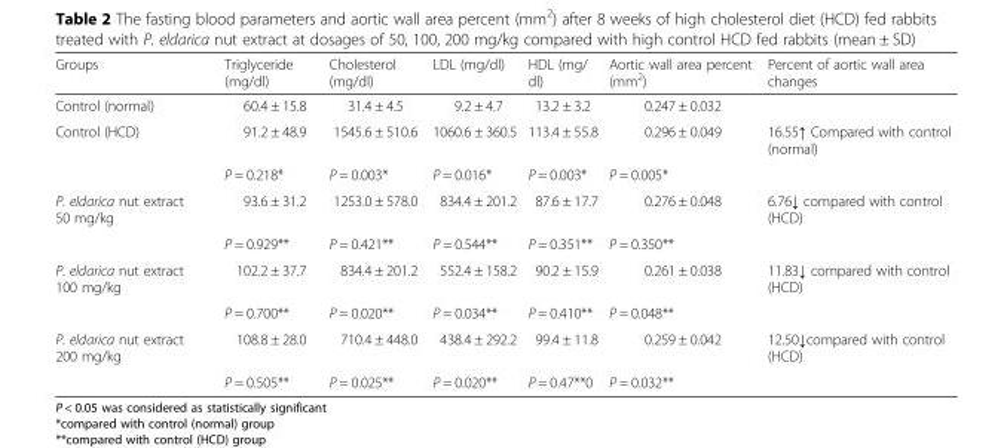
<table><thead><tr><td>Groups</td><td>Triglyceride (mg/dl)</td><td>Cholesterol (mg/dl)</td><td>LDL (mg/dl)</td><td>HDL (mg/ dl)</td><td>Aortic wall area percent (mm<sup>2</sup>)</td><td>Percent of aortic wall area changes</td></tr></thead><tbody><tr><td>Control (normal)</td><td>60.4 ± 15.8</td><td>31.4 ± 4.5</td><td>9.2 ± 4.7</td><td>13.2 ± 3.2</td><td>0.247 ± 0.032</td><td></td></tr><tr><td rowspan="2">Control (HCD)</td><td>91.2 ± 48.9</td><td>1545.6 ± 510.6</td><td>1060.6 ± 360.5</td><td>113.4 ± 55.8</td><td>0.296 ± 0.049</td><td>16.55↑ Compared with control (normal)</td></tr><tr><td>P = 0.218*</td><td>P = 0.003*</td><td>P = 0.016*</td><td>P = 0.003*</td><td>P = 0.005*</td><td></td></tr><tr><td rowspan="2">P. eldarica nut extract 50 mg/kg</td><td>93.6 ± 31.2</td><td>1253.0 ± 578.0</td><td>834.4 ± 201.2</td><td>87.6 ± 17.7</td><td>0.276 ± 0.048</td><td>6.76↓ compared with control (HCD)</td></tr><tr><td>P = 0.929**</td><td>P = 0.421**</td><td>P = 0.544**</td><td>P = 0.351**</td><td>P = 0.350**</td><td></td></tr><tr><td rowspan="2">P. eldarica nut extract 100 mg/kg</td><td>102.2 ± 37.7</td><td>834.4 ± 201.2</td><td>552.4 ± 158.2</td><td>90.2 ± 15.9</td><td>0.261 ± 0.038</td><td>11.83↓ compared with control (HCD)</td></tr><tr><td>P = 0.700**</td><td>P = 0.020**</td><td>P = 0.034**</td><td>P = 0.410**</td><td>P = 0.048**</td><td></td></tr><tr><td rowspan="2">P. eldarica nut extract 200 mg/kg</td><td>108.8 ± 28.0</td><td>710.4 ± 448.0</td><td>438.4 ± 292.2</td><td>99.4 ± 11.8</td><td>0.259 ± 0.042</td><td>12.50↓compared with control (HCD)</td></tr><tr><td>P = 0.505**</td><td>P = 0.025**</td><td>P = 0.020**</td><td>P = 0.47**0</td><td>P = 0.032**</td><td></td></tr></tbody></table>